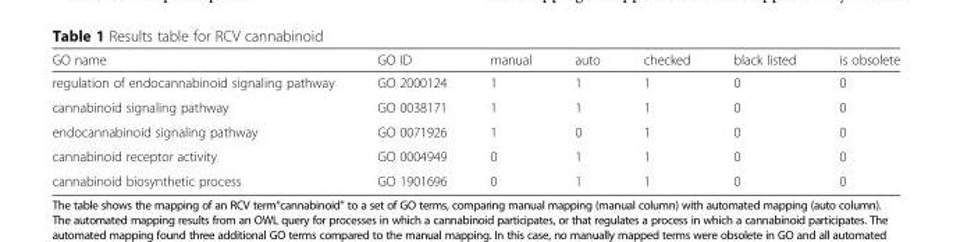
<table><thead><tr><td>GO name</td><td>GO ID</td><td>manual</td><td>auto</td><td>checked</td><td>black listed</td><td>is obsolete</td></tr></thead><tbody><tr><td>regulation of endocannabinoid signaling pathway</td><td>GO 2000124</td><td>1</td><td>1</td><td>1</td><td>0</td><td>0</td></tr><tr><td>cannabinoid signaling pathway</td><td>GO 0038171</td><td>1</td><td>1</td><td>1</td><td>0</td><td>0</td></tr><tr><td>endocannabinoid signaling pathway</td><td>GO 0071926</td><td>1</td><td>0</td><td>1</td><td>0</td><td>0</td></tr><tr><td>cannabinoid receptor activity</td><td>GO 0004949</td><td>0</td><td>1</td><td>1</td><td>0</td><td>0</td></tr><tr><td>cannabinoid biosynthetic process</td><td>GO 1901696</td><td>0</td><td>1</td><td>1</td><td>0</td><td>0</td></tr></tbody></table>